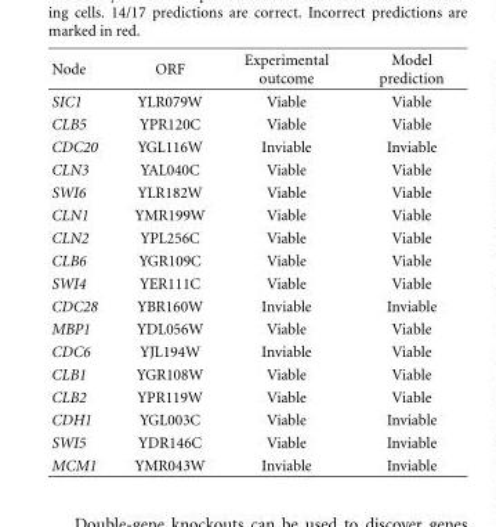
<table><thead><tr><td>Node</td><td>ORF</td><td>Experimental outcome</td><td>Model prediction</td></tr></thead><tbody><tr><td>SIC1</td><td>YLR079W</td><td>Viable</td><td>Viable</td></tr><tr><td>CLB5</td><td>YPR120C</td><td>Viable</td><td>Viable</td></tr><tr><td>CDC20</td><td>YGL116W</td><td>Inviable</td><td>Inviable</td></tr><tr><td>CLN3</td><td>YAL040C</td><td>Viable</td><td>Viable</td></tr><tr><td>SWI6</td><td>YLR182W</td><td>Viable</td><td>Viable</td></tr><tr><td>CLN1</td><td>YMR199W</td><td>Viable</td><td>Viable</td></tr><tr><td>CLN2</td><td>YPL256C</td><td>Viable</td><td>Viable</td></tr><tr><td>CLB6</td><td>YGR109C</td><td>Viable</td><td>Viable</td></tr><tr><td>SWI4</td><td>YER111C</td><td>Viable</td><td>Viable</td></tr><tr><td>CDC28</td><td>YBR160W</td><td>Inviable</td><td>Inviable</td></tr><tr><td>MBP1</td><td>YDL056W</td><td>Viable</td><td>Viable</td></tr><tr><td>CDC6</td><td>YJL194W</td><td>Inviable</td><td>Viable</td></tr><tr><td>CLB1</td><td>YGR108W</td><td>Viable</td><td>Viable</td></tr><tr><td>CLB2</td><td>YPR119W</td><td>Viable</td><td>Viable</td></tr><tr><td>CDH1</td><td>YGL003C</td><td>Viable</td><td>Inviable</td></tr><tr><td>SWI5</td><td>YDR146C</td><td>Viable</td><td>Inviable</td></tr><tr><td>MCM1</td><td>YMR043W</td><td>Inviable</td><td>Inviable</td></tr></tbody></table>